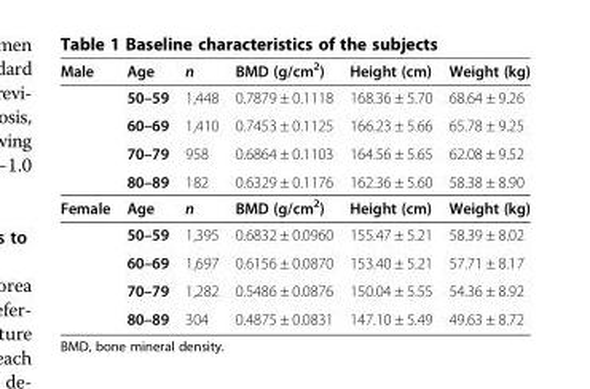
<table><tbody><tr><td rowspan="5">Male</td><td>Age</td><td>n</td><td>BMD (g/cm<sup>2</sup>)</td><td>Height (cm)</td><td>Weight (kg)</td></tr><tr><td>50–59</td><td>1,448</td><td>0.7879 ± 0.1118</td><td>168.36 ± 5.70</td><td>68.64 ± 9.26</td></tr><tr><td>60–69</td><td>1,410</td><td>0.7453 ± 0.1125</td><td>166.23 ± 5.66</td><td>65.78 ± 9.25</td></tr><tr><td>70–79</td><td>958</td><td>0.6864 ± 0.1103</td><td>164.56 ± 5.65</td><td>62.08 ± 9.52</td></tr><tr><td>80–89</td><td>182</td><td>0.6329 ± 0.1176</td><td>162.36 ± 5.60</td><td>58.38 ± 8.90</td></tr><tr><td rowspan="5">Female</td><td>Age</td><td>n</td><td>BMD (g/cm<sup>2</sup>)</td><td>Height (cm)</td><td>Weight (kg)</td></tr><tr><td>50–59</td><td>1,395</td><td>0.6832 ± 0.0960</td><td>155.47 ± 5.21</td><td>58.39 ± 8.02</td></tr><tr><td>60–69</td><td>1,697</td><td>0.6156 ± 0.0870</td><td>153.40 ± 5.21</td><td>57.71 ± 8.17</td></tr><tr><td>70–79</td><td>1,282</td><td>0.5486 ± 0.0876</td><td>150.04 ± 5.55</td><td>54.36 ± 8.92</td></tr><tr><td>80–89</td><td>304</td><td>0.4875 ± 0.0831</td><td>147.10 ± 5.49</td><td>49.63 ± 8.72</td></tr></tbody></table>